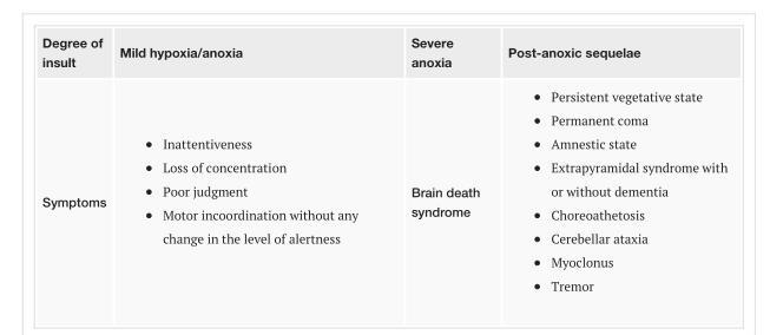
<table><tbody><tr><td>Degree of insult</td><td>Mild hypoxia/anoxia</td><td>Severe anoxia</td><td>Post-anoxic sequelae</td></tr><tr><td>Symptoms</td><td>Inattentiveness Loss of concentration Poor judgment Motor incoordination without any change in the level of alertness</td><td>Brain death syndrome</td><td>Persistent vegetative state Permanent coma Amnestic state Extrapyramidal syndrome with or without dementia Choreoathetosis Cerebellar ataxia Myoclonus Tremor</td></tr></tbody></table>